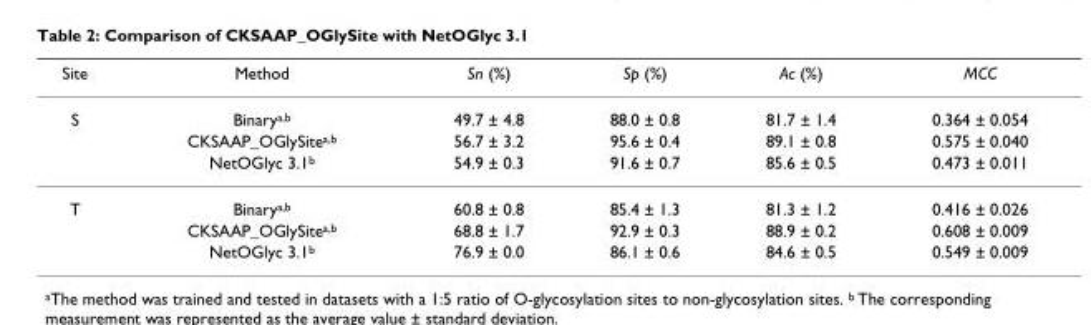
<table><thead><tr><td>Site</td><td>Method</td><td>Sn (%)</td><td>Sp (%)</td><td>Ac (%)</td><td>MCC</td></tr></thead><tbody><tr><td rowspan="3">S</td><td>Binary<sup>a,b</sup></td><td>49.7 ± 4.8</td><td>88.0 ± 0.8</td><td>81.7 ± 1.4</td><td>0.364 ± 0.054</td></tr><tr><td>CKSAAP_OGlySite<sup>a,b</sup></td><td>56.7 ± 3.2</td><td>95.6 ± 0.4</td><td>89.1 ± 0.8</td><td>0.575 ± 0.040</td></tr><tr><td>NetOGlyc 3.1<sup>b</sup></td><td>54.9 ± 0.3</td><td>91.6 ± 0.7</td><td>85.6 ± 0.5</td><td>0.473 ± 0.011</td></tr><tr><td rowspan="3">T</td><td>Binary<sup>a,b</sup></td><td>60.8 ± 0.8</td><td>85.4 ± 1.3</td><td>81.3 ± 1.2</td><td>0.416 ± 0.026</td></tr><tr><td>CKSAAP_OGlySite<sup>a,b</sup></td><td>68.8 ± 1.7</td><td>92.9 ± 0.3</td><td>88.9 ± 0.2</td><td>0.608 ± 0.009</td></tr><tr><td>NetOGlyc 3.1<sup>b</sup></td><td>76.9 ± 0.0</td><td>86.1 ± 0.6</td><td>84.6 ± 0.5</td><td>0.549 ± 0.009</td></tr></tbody></table>